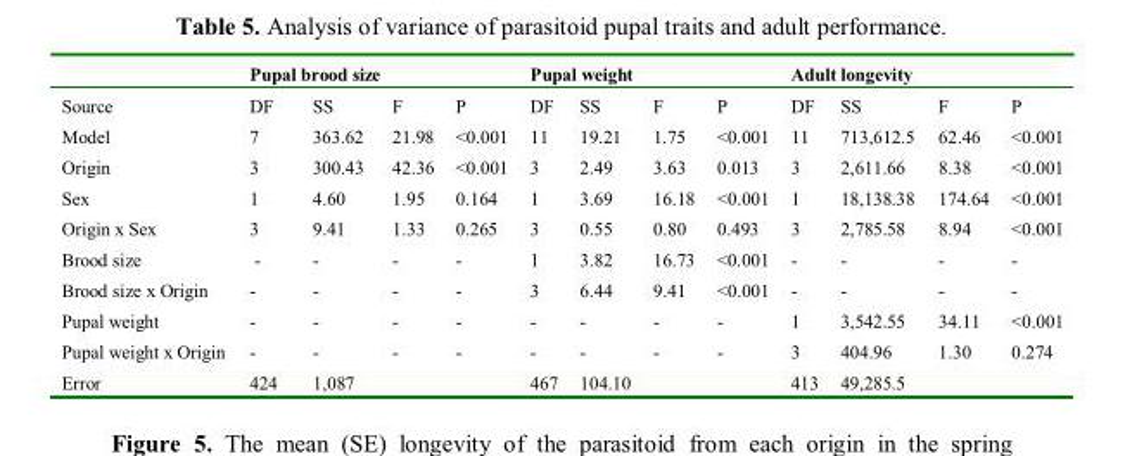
<table><thead><tr><td rowspan="2">Source</td><td colspan="4">Pupal brood size</td><td colspan="4">Pupal weight</td><td colspan="4">Adult longevity</td></tr><tr><td>DF</td><td>SS</td><td>F</td><td>P</td><td>DF</td><td>SS</td><td>F</td><td>P</td><td>DF</td><td>SS</td><td>F</td><td>P</td></tr></thead><tbody><tr><td>Model</td><td>7</td><td>363.62</td><td>21.98</td><td>&lt;0.001</td><td>11</td><td>19.21</td><td>1.75</td><td>&lt;0.001</td><td>11</td><td>713,612.5</td><td>62.46</td><td>&lt;0.001</td></tr><tr><td>Origin</td><td>3</td><td>300.43</td><td>42.36</td><td>&lt;0.001</td><td>3</td><td>2.49</td><td>3.63</td><td>0.013</td><td>3</td><td>2,611.66</td><td>8.38</td><td>&lt;0.001</td></tr><tr><td>Sex</td><td>1</td><td>4.60</td><td>1.95</td><td>0.164</td><td>1</td><td>3.69</td><td>16.18</td><td>&lt;0.001</td><td>1</td><td>18,138.38</td><td>174.64</td><td>&lt;0.001</td></tr><tr><td>Origin x Sex</td><td>3</td><td>9.41</td><td>1.33</td><td>0.265</td><td>3</td><td>0.55</td><td>0.80</td><td>0.493</td><td>3</td><td>2,785.58</td><td>8.94</td><td>&lt;0.001</td></tr><tr><td>Brood size</td><td>-</td><td>-</td><td>-</td><td>-</td><td>1</td><td>3.82</td><td>16.73</td><td>&lt;0.001</td><td>-</td><td>-</td><td>-</td><td>-</td></tr><tr><td>Brood size x Origin</td><td>-</td><td>-</td><td>-</td><td>-</td><td>3</td><td>6.44</td><td>9.41</td><td>&lt;0.001</td><td>-</td><td>-</td><td>-</td><td>-</td></tr><tr><td>Pupal weight</td><td>-</td><td>-</td><td>-</td><td>-</td><td>-</td><td>-</td><td>-</td><td>-</td><td>1</td><td>3,542.55</td><td>34.11</td><td>&lt;0.001</td></tr><tr><td>Pupal weight x Origin</td><td>-</td><td>-</td><td>-</td><td>-</td><td>-</td><td>-</td><td>-</td><td>-</td><td>3</td><td>404.96</td><td>1.30</td><td>0.274</td></tr><tr><td>Error</td><td>424</td><td>1,087</td><td></td><td></td><td>467</td><td>104.10</td><td></td><td></td><td>413</td><td>49,285.5</td><td></td><td></td></tr></tbody></table>